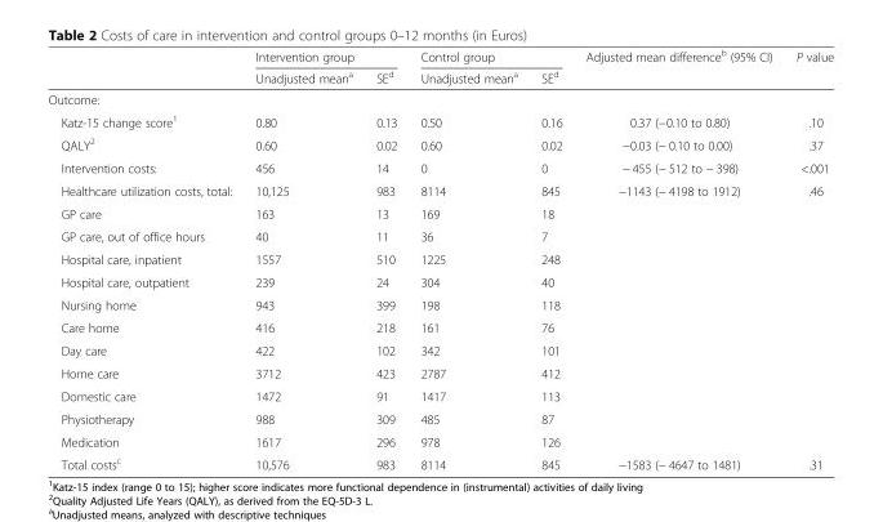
<table><thead><tr><td rowspan="2"></td><td colspan="2">Intervention group</td><td colspan="2">Control group</td><td rowspan="2">Adjusted mean difference<sup>b</sup> (95% CI)</td><td rowspan="2">P value</td></tr><tr><td>Unadjusted mean<sup>a</sup></td><td>SE<sup>d</sup></td><td>Unadjusted mean<sup>a</sup></td><td>SE<sup>d</sup></td></tr></thead><tbody><tr><td colspan="7">Outcome:</td></tr><tr><td>Katz-15 change score<sup>1</sup></td><td>0.80</td><td>0.13</td><td>0.50</td><td>0.16</td><td>0.37 (−0.10 to 0.80)</td><td>.10</td></tr><tr><td>QALY<sup>2</sup></td><td>0.60</td><td>0.02</td><td>0.60</td><td>0.02</td><td>−0.03 (− 0.10 to 0.00)</td><td>.37</td></tr><tr><td>Intervention costs:</td><td>456</td><td>14</td><td>0</td><td>0</td><td>− 455 (− 512 to − 398)</td><td>&lt;.001</td></tr><tr><td>Healthcare utilization costs, total:</td><td>10,125</td><td>983</td><td>8114</td><td>845</td><td>−1143 (− 4198 to 1912)</td><td>.46</td></tr><tr><td>GP care</td><td>163</td><td>13</td><td>169</td><td>18</td><td></td><td></td></tr><tr><td>GP care, out of office hours</td><td>40</td><td>11</td><td>36</td><td>7</td><td></td><td></td></tr><tr><td>Hospital care, inpatient</td><td>1557</td><td>510</td><td>1225</td><td>248</td><td></td><td></td></tr><tr><td>Hospital care, outpatient</td><td>239</td><td>24</td><td>304</td><td>40</td><td></td><td></td></tr><tr><td>Nursing home</td><td>943</td><td>399</td><td>198</td><td>118</td><td></td><td></td></tr><tr><td>Care home</td><td>416</td><td>218</td><td>161</td><td>76</td><td></td><td></td></tr><tr><td>Day care</td><td>422</td><td>102</td><td>342</td><td>101</td><td></td><td></td></tr><tr><td>Home care</td><td>3712</td><td>423</td><td>2787</td><td>412</td><td></td><td></td></tr><tr><td>Domestic care</td><td>1472</td><td>91</td><td>1417</td><td>113</td><td></td><td></td></tr><tr><td>Physiotherapy</td><td>988</td><td>309</td><td>485</td><td>87</td><td></td><td></td></tr><tr><td>Medication</td><td>1617</td><td>296</td><td>978</td><td>126</td><td></td><td></td></tr><tr><td>Total costs<sup>c</sup></td><td>10,576</td><td>983</td><td>8114</td><td>845</td><td>−1583 (− 4647 to 1481)</td><td>.31</td></tr></tbody></table>